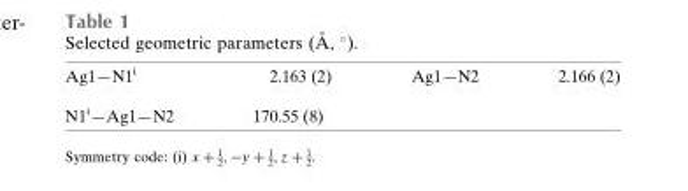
<table><tbody><tr><td>Ag1—N1<sup>i</sup></td><td>2.163 (2)</td><td>Ag1—N2</td><td>2.166 (2)</td></tr><tr><td>N1<sup>i</sup>—Ag1—N2</td><td>170.55 (8)</td><td></td><td></td></tr></tbody></table>